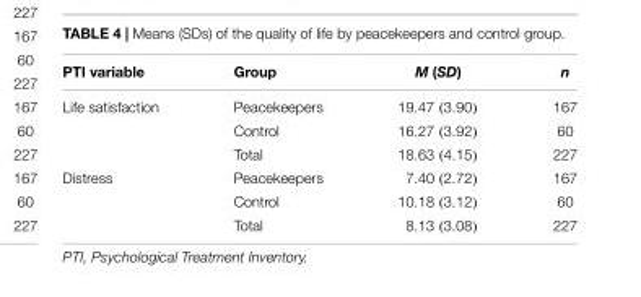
<table><thead><tr><td>PTI variable</td><td>Group</td><td>M (SD)</td><td>n</td></tr></thead><tbody><tr><td rowspan="3">Life satisfaction</td><td>Peacekeepers</td><td>19.47 (3.90)</td><td>167</td></tr><tr><td>Control</td><td>16.27 (3.92)</td><td>60</td></tr><tr><td>Total</td><td>18.63 (4.15)</td><td>227</td></tr><tr><td rowspan="3">Distress</td><td>Peacekeepers</td><td>7.40 (2.72)</td><td>167</td></tr><tr><td>Control</td><td>10.18 (3.12)</td><td>60</td></tr><tr><td>Total</td><td>8.13 (3.08)</td><td>227</td></tr></tbody></table>